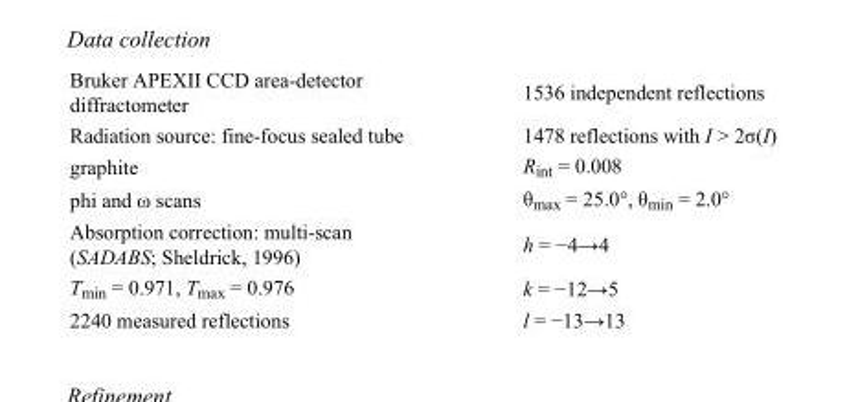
<table><tbody><tr><td>Bruker APEXII CCD area-detector diffractometer</td><td>1536 independent reflections</td></tr><tr><td>Radiation source: fine-focus sealed tube</td><td>1478 reflections with I &gt; 2σ(I)</td></tr><tr><td>graphite</td><td>R<sub>int</sub> = 0.008</td></tr><tr><td>phi and ω scans</td><td>θ<sub>max</sub> = 25.0°, θ<sub>min</sub> = 2.0°</td></tr><tr><td>Absorption correction: multi-scan (SADABS; Sheldrick, 1996)</td><td>h = −4→4</td></tr><tr><td>T<sub>min</sub> = 0.971, T<sub>max</sub> = 0.976</td><td>k = −12→5</td></tr><tr><td>2240 measured reflections</td><td>l = −13→13</td></tr></tbody></table>